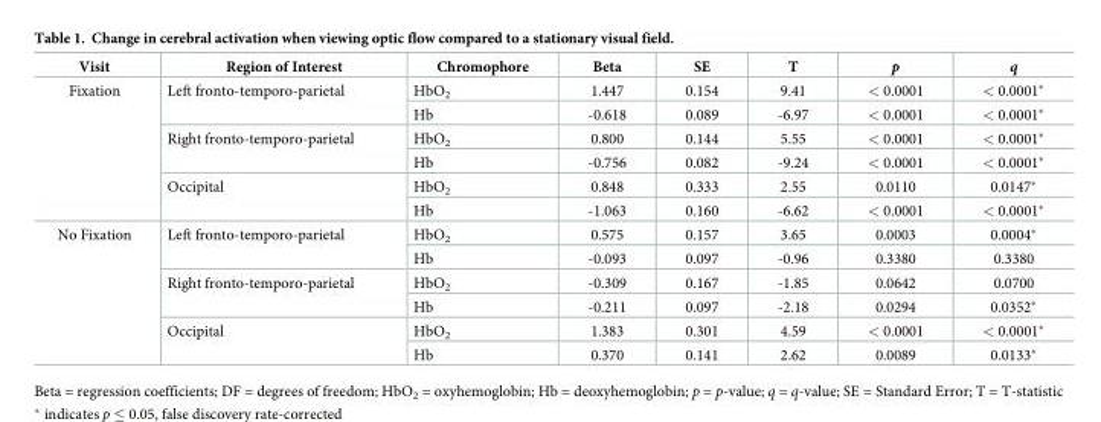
<table><thead><tr><td>Visit</td><td>Region of Interest</td><td>Chromophore</td><td>Beta</td><td>SE</td><td>T</td><td>p</td><td>q</td></tr></thead><tbody><tr><td rowspan="6">Fixation</td><td rowspan="2">Left fronto-temporo-parietal</td><td>HbO<sub>2</sub></td><td>1.447</td><td>0.154</td><td>9.41</td><td>&lt; 0.0001</td><td>&lt; 0.0001*</td></tr><tr><td>Hb</td><td>-0.618</td><td>0.089</td><td>-6.97</td><td>&lt; 0.0001</td><td>&lt; 0.0001*</td></tr><tr><td rowspan="2">Right fronto-temporo-parietal</td><td>HbO<sub>2</sub></td><td>0.800</td><td>0.144</td><td>5.55</td><td>&lt; 0.0001</td><td>&lt; 0.0001*</td></tr><tr><td>Hb</td><td>-0.756</td><td>0.082</td><td>-9.24</td><td>&lt; 0.0001</td><td>&lt; 0.0001*</td></tr><tr><td rowspan="2">Occipital</td><td>HbO<sub>2</sub></td><td>0.848</td><td>0.333</td><td>2.55</td><td>0.0110</td><td>0.0147*</td></tr><tr><td>Hb</td><td>-1.063</td><td>0.160</td><td>-6.62</td><td>&lt; 0.0001</td><td>&lt; 0.0001*</td></tr><tr><td rowspan="6">No Fixation</td><td rowspan="2">Left fronto-temporo-parietal</td><td>HbO<sub>2</sub></td><td>0.575</td><td>0.157</td><td>3.65</td><td>0.0003</td><td>0.0004*</td></tr><tr><td>Hb</td><td>-0.093</td><td>0.097</td><td>-0.96</td><td>0.3380</td><td>0.3380</td></tr><tr><td rowspan="2">Right fronto-temporo-parietal</td><td>HbO<sub>2</sub></td><td>-0.309</td><td>0.167</td><td>-1.85</td><td>0.0642</td><td>0.0700</td></tr><tr><td>Hb</td><td>-0.211</td><td>0.097</td><td>-2.18</td><td>0.0294</td><td>0.0352*</td></tr><tr><td rowspan="2">Occipital</td><td>HbO<sub>2</sub></td><td>1.383</td><td>0.301</td><td>4.59</td><td>&lt; 0.0001</td><td>&lt; 0.0001*</td></tr><tr><td>Hb</td><td>0.370</td><td>0.141</td><td>2.62</td><td>0.0089</td><td>0.0133*</td></tr></tbody></table>